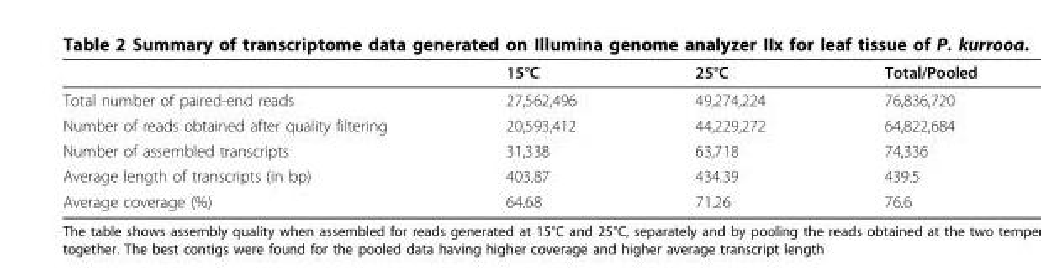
<table><thead><tr><td></td><td>15°C</td><td>25°C</td><td>Total/Pooled</td></tr></thead><tbody><tr><td>Total number of paired-end reads</td><td>27,562,496</td><td>49,274,224</td><td>76,836,720</td></tr><tr><td>Number of reads obtained after quality filtering</td><td>20,593,412</td><td>44,229,272</td><td>64,822,684</td></tr><tr><td>Number of assembled transcripts</td><td>31,338</td><td>63,718</td><td>74,336</td></tr><tr><td>Average length of transcripts (in bp)</td><td>403.87</td><td>434.39</td><td>439.5</td></tr><tr><td>Average coverage (%)</td><td>64.68</td><td>71.26</td><td>76.6</td></tr></tbody></table>